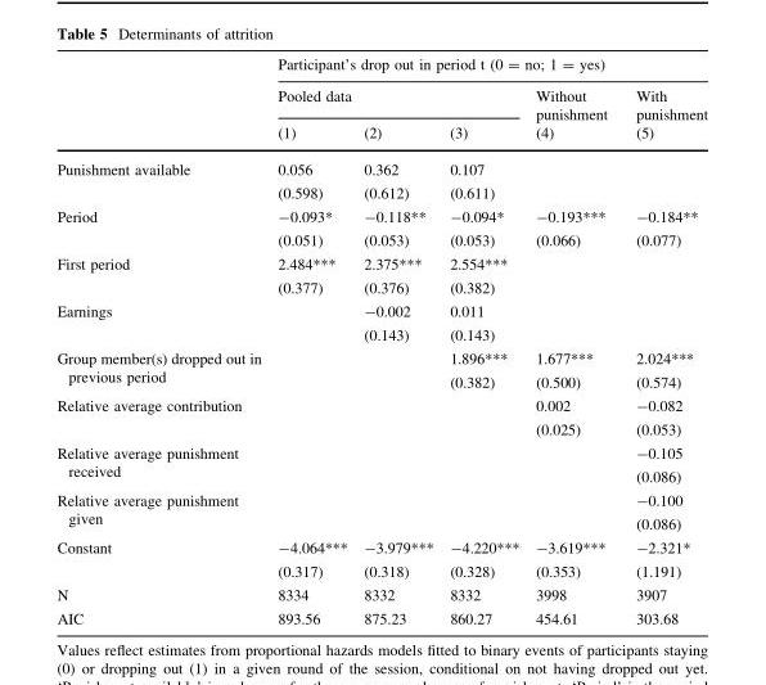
<table><thead><tr><td rowspan="3"></td><td colspan="5">Participant’s drop out in period t (0 = no; 1 = yes)</td></tr><tr><td colspan="3">Pooled data</td><td rowspan="2">Without punishment (4)</td><td rowspan="2">With punishment (5)</td></tr><tr><td>(1)</td><td>(2)</td><td>(3)</td></tr></thead><tbody><tr><td rowspan="2">Punishment available</td><td>0.056</td><td>0.362</td><td>0.107</td><td></td><td></td></tr><tr><td>(0.598)</td><td>(0.612)</td><td>(0.611)</td><td></td><td></td></tr><tr><td rowspan="2">Period</td><td>-0.093*</td><td>-0.118**</td><td>-0.094*</td><td>-0.193***</td><td>-0.184**</td></tr><tr><td>(0.051)</td><td>(0.053)</td><td>(0.053)</td><td>(0.066)</td><td>(0.077)</td></tr><tr><td rowspan="2">First period</td><td>2.484***</td><td>2.375***</td><td>2.554***</td><td></td><td></td></tr><tr><td>(0.377)</td><td>(0.376)</td><td>(0.382)</td><td></td><td></td></tr><tr><td rowspan="2">Earnings</td><td></td><td>-0.002</td><td>0.011</td><td></td><td></td></tr><tr><td></td><td>(0.143)</td><td>(0.143)</td><td></td><td></td></tr><tr><td rowspan="2">Group member(s) dropped out in previous period</td><td></td><td></td><td>1.896***</td><td>1.677***</td><td>2.024***</td></tr><tr><td></td><td></td><td>(0.382)</td><td>(0.500)</td><td>(0.574)</td></tr><tr><td rowspan="2">Relative average contribution</td><td></td><td></td><td></td><td>0.002</td><td>-0.082</td></tr><tr><td></td><td></td><td></td><td>(0.025)</td><td>(0.053)</td></tr><tr><td rowspan="2">Relative average punishment received</td><td></td><td></td><td></td><td></td><td>-0.105</td></tr><tr><td></td><td></td><td></td><td></td><td>(0.086)</td></tr><tr><td rowspan="2">Relative average punishment given</td><td></td><td></td><td></td><td></td><td>-0.100</td></tr><tr><td></td><td></td><td></td><td></td><td>(0.086)</td></tr><tr><td rowspan="2">Constant</td><td>-4.064***</td><td>-3.979***</td><td>-4.220***</td><td>-3.619***</td><td>-2.321*</td></tr><tr><td>(0.317)</td><td>(0.318)</td><td>(0.328)</td><td>(0.353)</td><td>(1.191)</td></tr><tr><td>N</td><td>8334</td><td>8332</td><td>8332</td><td>3998</td><td>3907</td></tr><tr><td>AIC</td><td>893.56</td><td>875.23</td><td>860.27</td><td>454.61</td><td>303.68</td></tr></tbody></table>